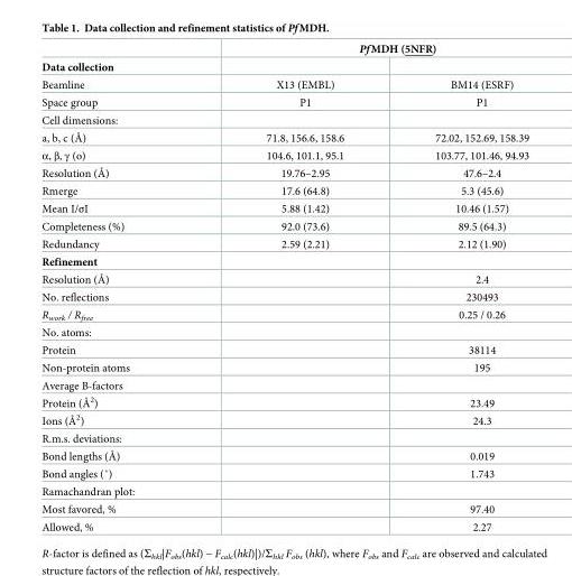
<table><thead><tr><td rowspan="2">Data collection</td><td colspan="2">PfMDH (5NFR)</td></tr><tr><td></td><td></td></tr></thead><tbody><tr><td>Beamline</td><td>X13 (EMBL)</td><td>BM14 (ESRF)</td></tr><tr><td>Space group</td><td>P1</td><td>P1</td></tr><tr><td colspan="3">Cell dimensions:</td></tr><tr><td>a, b, c (Å)</td><td>71.8, 156.6, 158.6</td><td>72.02, 152.69, 158.39</td></tr><tr><td>α, β, γ (o)</td><td>104.6, 101.1, 95.1</td><td>103.77, 101.46, 94.93</td></tr><tr><td>Resolution (Å)</td><td>19.76–2.95</td><td>47.6–2.4</td></tr><tr><td>Rmerge</td><td>17.6 (64.8)</td><td>5.3 (45.6)</td></tr><tr><td>Mean I/σI</td><td>5.88 (1.42)</td><td>10.46 (1.57)</td></tr><tr><td>Completeness (%)</td><td>92.0 (73.6)</td><td>89.5 (64.3)</td></tr><tr><td>Redundancy</td><td>2.59 (2.21)</td><td>2.12 (1.90)</td></tr><tr><td colspan="3">Refinement</td></tr><tr><td>Resolution (Å)</td><td></td><td>2.4</td></tr><tr><td>No. reflections</td><td></td><td>230493</td></tr><tr><td>R<sub>work</sub> / R<sub>free</sub></td><td></td><td>0.25 / 0.26</td></tr><tr><td colspan="3">No. atoms:</td></tr><tr><td>Protein</td><td></td><td>38114</td></tr><tr><td>Non-protein atoms</td><td></td><td>195</td></tr><tr><td colspan="3">Average B-factors</td></tr><tr><td>Protein (Å<sup>2</sup>)</td><td></td><td>23.49</td></tr><tr><td>Ions (Å<sup>2</sup>)</td><td></td><td>24.3</td></tr><tr><td colspan="3">R.m.s. deviations:</td></tr><tr><td>Bond lengths (Å)</td><td></td><td>0.019</td></tr><tr><td>Bond angles (˚)</td><td></td><td>1.743</td></tr><tr><td colspan="3">Ramachandran plot:</td></tr><tr><td>Most favored, %</td><td></td><td>97.40</td></tr><tr><td>Allowed, %</td><td></td><td>2.27</td></tr></tbody></table>